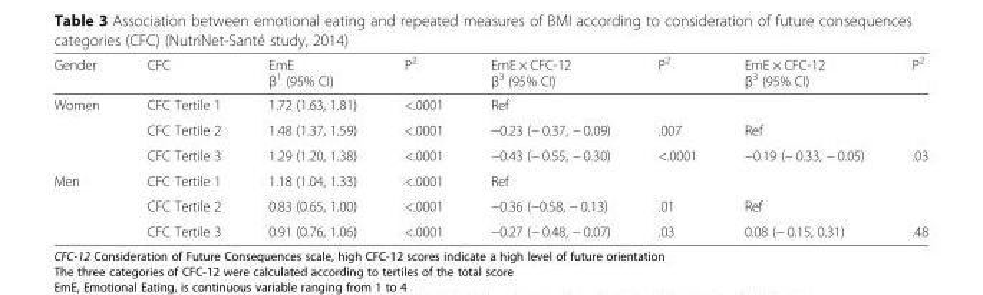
<table><thead><tr><td>Gender</td><td>CFC</td><td>EmE β<sup>1</sup> (95% CI)</td><td>P<sup>2</sup></td><td>EmE × CFC-12 β<sup>3</sup> (95% CI)</td><td>P<sup>2</sup></td><td>EmE × CFC-12 β<sup>3</sup> (95% CI)</td><td>P<sup>2</sup></td></tr></thead><tbody><tr><td rowspan="3">Women</td><td>CFC Tertile 1</td><td>1.72 (1.63, 1.81)</td><td>&lt;.0001</td><td>Ref</td><td></td><td></td><td></td></tr><tr><td>CFC Tertile 2</td><td>1.48 (1.37, 1.59)</td><td>&lt;.0001</td><td>−0.23 (− 0.37, − 0.09)</td><td>.007</td><td>Ref</td><td></td></tr><tr><td>CFC Tertile 3</td><td>1.29 (1.20, 1.38)</td><td>&lt;.0001</td><td>−0.43 (− 0.55, − 0.30)</td><td>&lt;.0001</td><td>−0.19 (− 0.33, − 0.05)</td><td>.03</td></tr><tr><td rowspan="3">Men</td><td>CFC Tertile 1</td><td>1.18 (1.04, 1.33)</td><td>&lt;.0001</td><td>Ref</td><td></td><td></td><td></td></tr><tr><td>CFC Tertile 2</td><td>0.83 (0.65, 1.00)</td><td>&lt;.0001</td><td>−0.36 (−0.58, − 0.13)</td><td>.01</td><td>Ref</td><td></td></tr><tr><td>CFC Tertile 3</td><td>0.91 (0.76, 1.06)</td><td>&lt;.0001</td><td>−0.27 (− 0.48, − 0.07)</td><td>.03</td><td>0.08 (− 0.15, 0.31)</td><td>.48</td></tr></tbody></table>